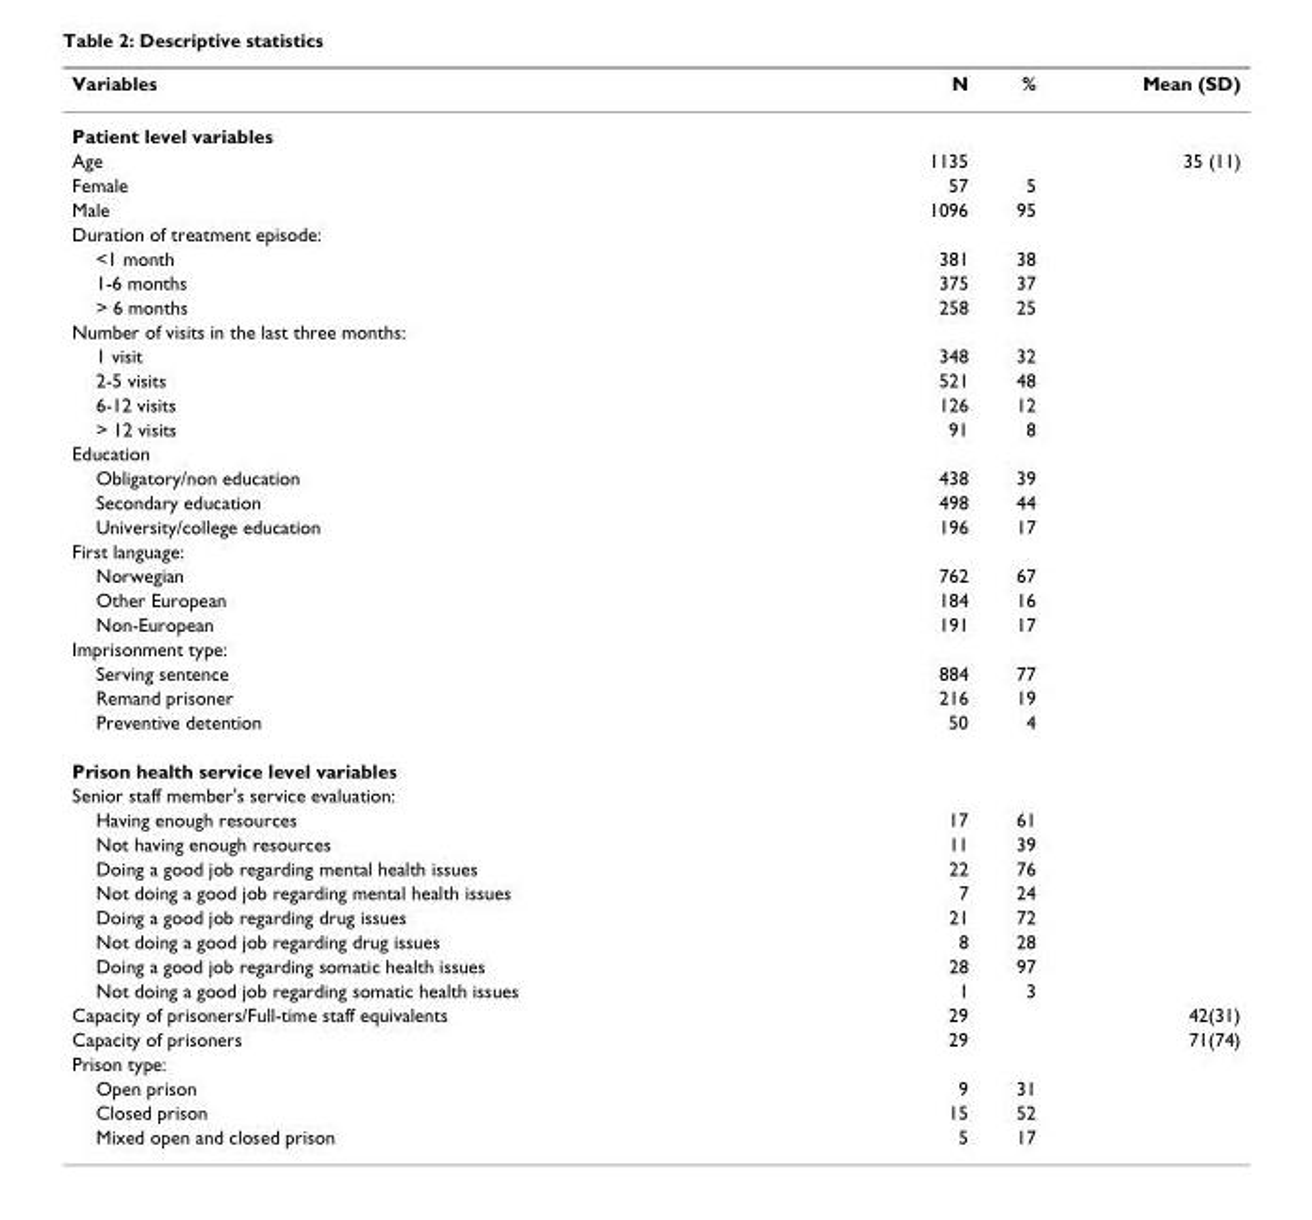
<table><thead><tr><td>Variables</td><td>N</td><td>%</td><td>Mean (SD)</td></tr></thead><tbody><tr><td colspan="4">Patient level variables</td></tr><tr><td>Age</td><td>1135</td><td></td><td>35 (11)</td></tr><tr><td>Female</td><td>57</td><td>5</td><td></td></tr><tr><td>Male</td><td>1096</td><td>95</td><td></td></tr><tr><td colspan="4">Duration of treatment episode:</td></tr><tr><td>&lt;1 month</td><td>381</td><td>38</td><td></td></tr><tr><td>1-6 months</td><td>375</td><td>37</td><td></td></tr><tr><td>&gt; 6 months</td><td>258</td><td>25</td><td></td></tr><tr><td colspan="4">Number of visits in the last three months:</td></tr><tr><td>1 visit</td><td>348</td><td>32</td><td></td></tr><tr><td>2-5 visits</td><td>521</td><td>48</td><td></td></tr><tr><td>6-12 visits</td><td>126</td><td>12</td><td></td></tr><tr><td>&gt; 12 visits</td><td>91</td><td>8</td><td></td></tr><tr><td colspan="4">Education</td></tr><tr><td>Obligatory/non education</td><td>438</td><td>39</td><td></td></tr><tr><td>Secondary education</td><td>498</td><td>44</td><td></td></tr><tr><td>University/college education</td><td>196</td><td>17</td><td></td></tr><tr><td colspan="4">First language:</td></tr><tr><td>Norwegian</td><td>762</td><td>67</td><td></td></tr><tr><td>Other European</td><td>184</td><td>16</td><td></td></tr><tr><td>Non-European</td><td>191</td><td>17</td><td></td></tr><tr><td colspan="4">Imprisonment type:</td></tr><tr><td>Serving sentence</td><td>884</td><td>77</td><td></td></tr><tr><td>Remand prisoner</td><td>216</td><td>19</td><td></td></tr><tr><td>Preventive detention</td><td>50</td><td>4</td><td></td></tr><tr><td colspan="4">Prison health service level variables</td></tr><tr><td colspan="4">Senior staff member&#x27;s service evaluation:</td></tr><tr><td>Having enough resources</td><td>17</td><td>61</td><td></td></tr><tr><td>Not having enough resources</td><td>11</td><td>39</td><td></td></tr><tr><td>Doing a good job regarding mental health issues</td><td>22</td><td>76</td><td></td></tr><tr><td>Not doing a good job regarding mental health issues</td><td>7</td><td>24</td><td></td></tr><tr><td>Doing a good job regarding drug issues</td><td>21</td><td>72</td><td></td></tr><tr><td>Not doing a good job regarding drug issues</td><td>8</td><td>28</td><td></td></tr><tr><td>Doing a good job regarding somatic health issues</td><td>28</td><td>97</td><td></td></tr><tr><td>Not doing a good job regarding somatic health issues</td><td>1</td><td>3</td><td></td></tr><tr><td>Capacity of prisoners/Full-time staff equivalents</td><td>29</td><td></td><td>42(31)</td></tr><tr><td>Capacity of prisoners</td><td>29</td><td></td><td>71(74)</td></tr><tr><td colspan="4">Prison type:</td></tr><tr><td>Open prison</td><td>9</td><td>31</td><td></td></tr><tr><td>Closed prison</td><td>15</td><td>52</td><td></td></tr><tr><td>Mixed open and closed prison</td><td>5</td><td>17</td><td></td></tr></tbody></table>